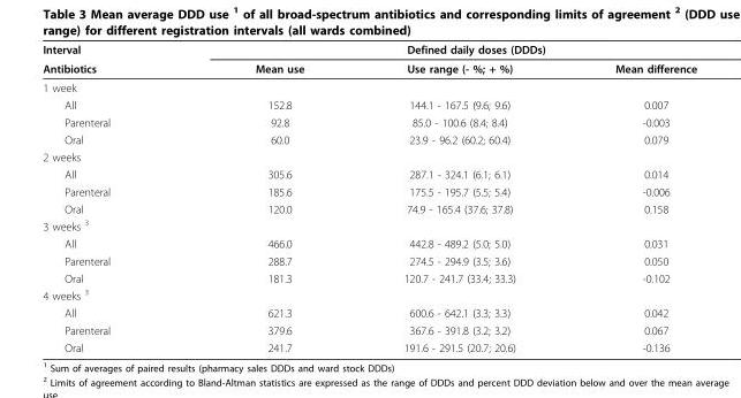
<table><thead><tr><td rowspan="2">Interval Antibiotics</td><td colspan="3">Defined daily doses (DDDs)</td></tr><tr><td>Mean use</td><td>Use range (- %; + %)</td><td>Mean difference</td></tr></thead><tbody><tr><td colspan="4">1 week</td></tr><tr><td>All</td><td>152.8</td><td>144.1 - 167.5 (9.6; 9.6)</td><td>0.007</td></tr><tr><td>Parenteral</td><td>92.8</td><td>85.0 - 100.6 (8.4; 8.4)</td><td>-0.003</td></tr><tr><td>Oral</td><td>60.0</td><td>23.9 - 96.2 (60.2; 60.4)</td><td>0.079</td></tr><tr><td colspan="4">2 weeks</td></tr><tr><td>All</td><td>305.6</td><td>287.1 - 324.1 (6.1; 6.1)</td><td>0.014</td></tr><tr><td>Parenteral</td><td>185.6</td><td>175.5 - 195.7 (5.5; 5.4)</td><td>-0.006</td></tr><tr><td>Oral</td><td>120.0</td><td>74.9 - 165.4 (37.6; 37.8)</td><td>0.158</td></tr><tr><td colspan="4">3 weeks <sup>3</sup></td></tr><tr><td>All</td><td>466.0</td><td>442.8 - 489.2 (5.0; 5.0)</td><td>0.031</td></tr><tr><td>Parenteral</td><td>288.7</td><td>274.5 - 294.9 (3.5; 3.6)</td><td>0.050</td></tr><tr><td>Oral</td><td>181.3</td><td>120.7 - 241.7 (33.4; 33.3)</td><td>-0.102</td></tr><tr><td colspan="4">4 weeks <sup>3</sup></td></tr><tr><td>All</td><td>621.3</td><td>600.6 - 642.1 (3.3; 3.3)</td><td>0.042</td></tr><tr><td>Parenteral</td><td>379.6</td><td>367.6 - 391.8 (3.2; 3.2)</td><td>0.067</td></tr><tr><td>Oral</td><td>241.7</td><td>191.6 - 291.5 (20.7; 20.6)</td><td>-0.136</td></tr></tbody></table>